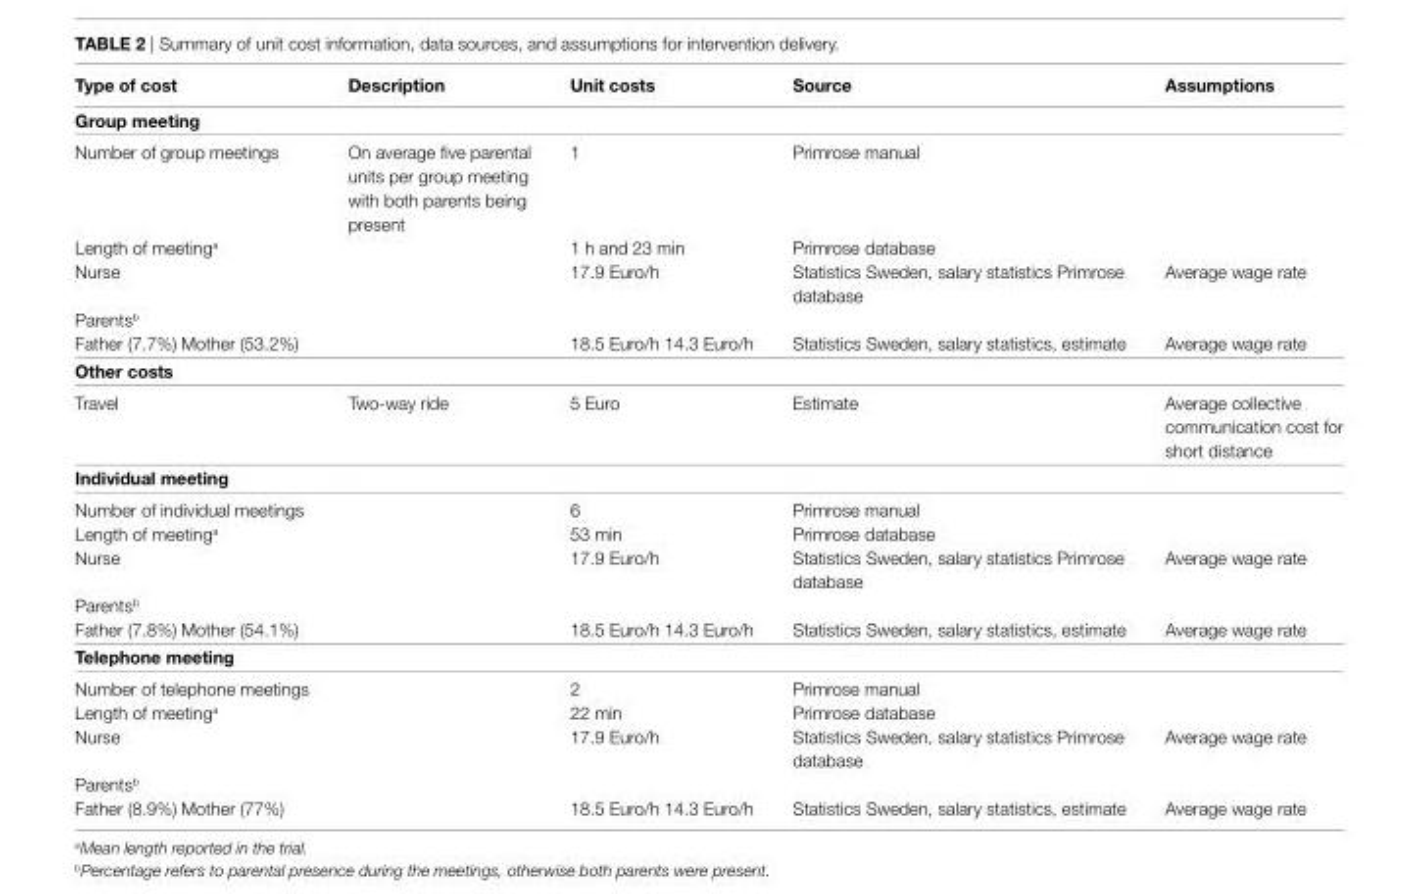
<table><thead><tr><td>Type of cost</td><td>Description</td><td>Unit costs</td><td>source</td><td>assumptions</td></tr></thead><tbody><tr><td colspan="5">group meeting</td></tr><tr><td>Number of group meetings</td><td>On average five parental units per group meeting with both parents being present</td><td>1</td><td>Primrose manual</td><td></td></tr><tr><td>Length of meeting<sup>a</sup></td><td></td><td>1 h and 23 min</td><td>Primrose database</td><td></td></tr><tr><td>Nurse</td><td></td><td>17.9 Euro/h</td><td>Statistics Sweden, salary statistics Primrose database</td><td>Average wage rate</td></tr><tr><td colspan="5">Parents<sup>b</sup></td></tr><tr><td>Father (7.7%) Mother (53.2%)</td><td></td><td>18.5 Euro/h 14.3 Euro/h</td><td>Statistics Sweden, salary statistics, estimate</td><td>Average wage rate</td></tr><tr><td colspan="5">Other costs</td></tr><tr><td>Travel</td><td>Two-way ride</td><td>5 Euro</td><td>Estimate</td><td>Average collective communication cost for short distance</td></tr><tr><td colspan="5">individual meeting</td></tr><tr><td>Number of individual meetings</td><td></td><td>6</td><td>Primrose manual</td><td></td></tr><tr><td>Length of meeting<sup>a</sup></td><td></td><td>53 min</td><td>Primrose database</td><td></td></tr><tr><td>Nurse</td><td></td><td>17.9 Euro/h</td><td>Statistics Sweden, salary statistics Primrose database</td><td>Average wage rate</td></tr><tr><td colspan="5">Parents<sup>b</sup></td></tr><tr><td>Father (7.8%) Mother (54.1%)</td><td></td><td>18.5 Euro/h 14.3 Euro/h</td><td>Statistics Sweden, salary statistics, estimate</td><td>Average wage rate</td></tr><tr><td colspan="5">Telephone meeting</td></tr><tr><td>Number of telephone meetings</td><td></td><td>2</td><td>Primrose manual</td><td></td></tr><tr><td>Length of meeting<sup>a</sup></td><td></td><td>22 min</td><td>Primrose database</td><td></td></tr><tr><td>Nurse</td><td></td><td>17.9 Euro/h</td><td>Statistics Sweden, salary statistics Primrose database</td><td>Average wage rate</td></tr><tr><td colspan="5">Parents<sup>b</sup></td></tr><tr><td>Father (8.9%) Mother (77%)</td><td></td><td>18.5 Euro/h 14.3 Euro/h</td><td>Statistics Sweden, salary statistics, estimate</td><td>Average wage rate</td></tr></tbody></table>